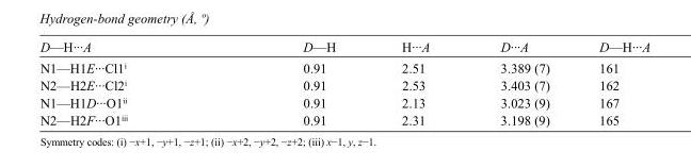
<table><tbody><tr><td>D—H···A</td><td>D—H</td><td>H···A</td><td>D···A</td><td>D—H···A</td></tr><tr><td>N1—H1E···Cl1<sup>i</sup></td><td>0.91</td><td>2.51</td><td>3.389 (7)</td><td>161</td></tr><tr><td>N2—H2E···Cl2<sup>i</sup></td><td>0.91</td><td>2.53</td><td>3.403 (7)</td><td>162</td></tr><tr><td>N1—H1D···O1<sup>ii</sup></td><td>0.91</td><td>2.13</td><td>3.023 (9)</td><td>167</td></tr><tr><td>N2—H2F···O1<sup>iii</sup></td><td>0.91</td><td>2.31</td><td>3.198 (9)</td><td>165</td></tr></tbody></table>